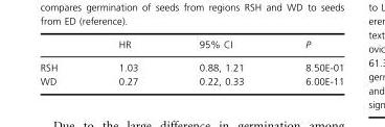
<table><thead><tr><td></td><td>HR</td><td>95% CI</td><td>P</td></tr></thead><tbody><tr><td>RSH</td><td>1.03</td><td>0.88, 1.21</td><td>8.50E-01</td></tr><tr><td>WD</td><td>0.27</td><td>0.22, 0.33</td><td>6.00E-11</td></tr></tbody></table>